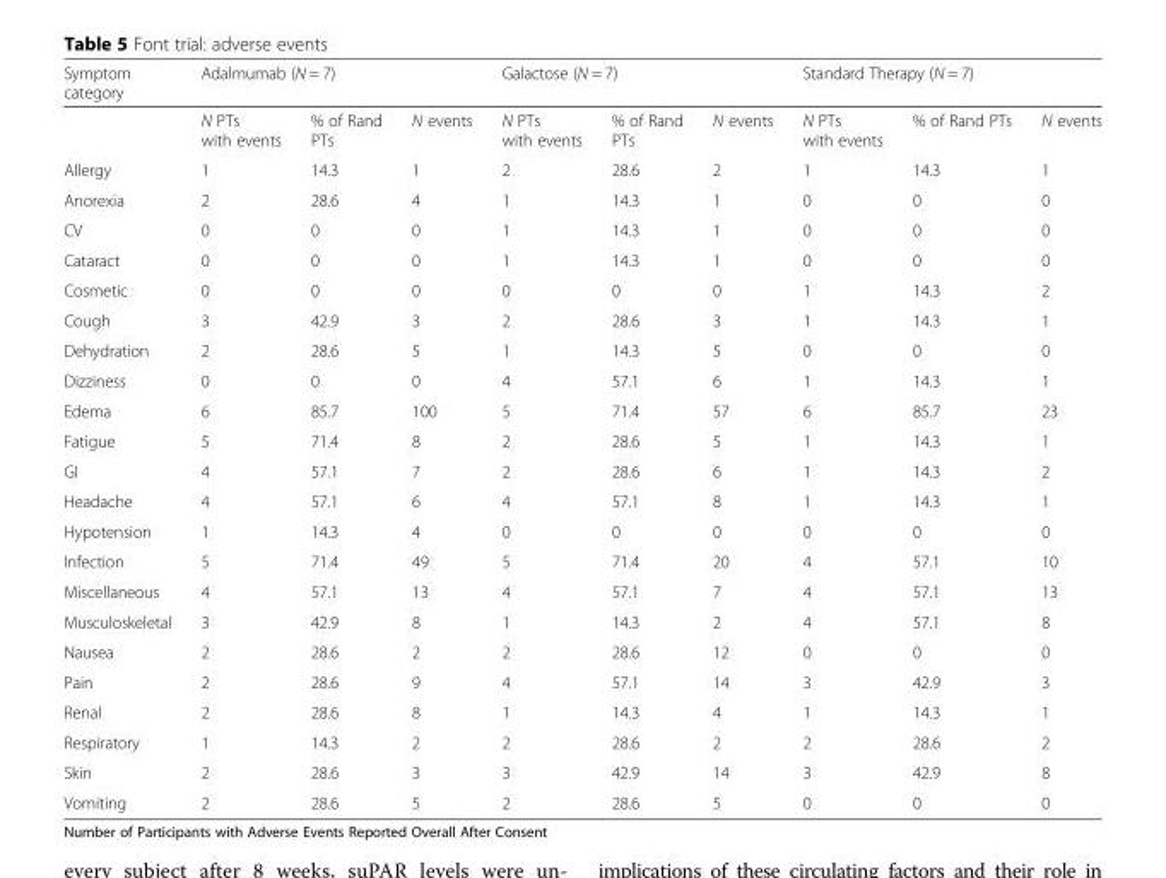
<table><thead><tr><td rowspan="2">Symptom category</td><td colspan="3">Adalmumab (N = 7)</td><td colspan="3">Galactose (N = 7)</td><td colspan="3">Standard Therapy (N = 7)</td></tr><tr><td>N PTs with events</td><td>% of Rand PTs</td><td>N events</td><td>N PTs with events</td><td>% of Rand PTs</td><td>N events</td><td>N PTs with events</td><td>% of Rand PTs</td><td>N events</td></tr></thead><tbody><tr><td>Allergy</td><td>1</td><td>14.3</td><td>1</td><td>2</td><td>28.6</td><td>2</td><td>1</td><td>14.3</td><td>1</td></tr><tr><td>Anorexia</td><td>2</td><td>28.6</td><td>4</td><td>1</td><td>14.3</td><td>1</td><td>0</td><td>0</td><td>0</td></tr><tr><td>CV</td><td>0</td><td>0</td><td>0</td><td>1</td><td>14.3</td><td>1</td><td>0</td><td>0</td><td>0</td></tr><tr><td>Cataract</td><td>0</td><td>0</td><td>0</td><td>1</td><td>14.3</td><td>1</td><td>0</td><td>0</td><td>0</td></tr><tr><td>Cosmetic</td><td>0</td><td>0</td><td>0</td><td>0</td><td>0</td><td>0</td><td>1</td><td>14.3</td><td>2</td></tr><tr><td>Cough</td><td>3</td><td>42.9</td><td>3</td><td>2</td><td>28.6</td><td>3</td><td>1</td><td>14.3</td><td>1</td></tr><tr><td>Dehydration</td><td>2</td><td>28.6</td><td>5</td><td>1</td><td>14.3</td><td>5</td><td>0</td><td>0</td><td>0</td></tr><tr><td>Dizziness</td><td>0</td><td>0</td><td>0</td><td>4</td><td>57.1</td><td>6</td><td>1</td><td>14.3</td><td>1</td></tr><tr><td>Edema</td><td>6</td><td>85.7</td><td>100</td><td>5</td><td>71.4</td><td>57</td><td>6</td><td>85.7</td><td>23</td></tr><tr><td>Fatigue</td><td>5</td><td>71.4</td><td>8</td><td>2</td><td>28.6</td><td>5</td><td>1</td><td>14.3</td><td>1</td></tr><tr><td>GI</td><td>4</td><td>57.1</td><td>7</td><td>2</td><td>28.6</td><td>6</td><td>1</td><td>14.3</td><td>2</td></tr><tr><td>Headache</td><td>4</td><td>57.1</td><td>6</td><td>4</td><td>57.1</td><td>8</td><td>1</td><td>14.3</td><td>1</td></tr><tr><td>Hypotension</td><td>1</td><td>14.3</td><td>4</td><td>0</td><td>0</td><td>0</td><td>0</td><td>0</td><td>0</td></tr><tr><td>Infection</td><td>5</td><td>71.4</td><td>49</td><td>5</td><td>71.4</td><td>20</td><td>4</td><td>57.1</td><td>10</td></tr><tr><td>Miscellaneous</td><td>4</td><td>57.1</td><td>13</td><td>4</td><td>57.1</td><td>7</td><td>4</td><td>57.1</td><td>13</td></tr><tr><td>Musculoskeletal</td><td>3</td><td>42.9</td><td>8</td><td>1</td><td>14.3</td><td>2</td><td>4</td><td>57.1</td><td>8</td></tr><tr><td>Nausea</td><td>2</td><td>28.6</td><td>2</td><td>2</td><td>28.6</td><td>12</td><td>0</td><td>0</td><td>0</td></tr><tr><td>Pain</td><td>2</td><td>28.6</td><td>9</td><td>4</td><td>57.1</td><td>14</td><td>3</td><td>42.9</td><td>3</td></tr><tr><td>Renal</td><td>2</td><td>28.6</td><td>8</td><td>1</td><td>14.3</td><td>4</td><td>1</td><td>14.3</td><td>1</td></tr><tr><td>Respiratory</td><td>1</td><td>14.3</td><td>2</td><td>2</td><td>28.6</td><td>2</td><td>2</td><td>28.6</td><td>2</td></tr><tr><td>Skin</td><td>2</td><td>28.6</td><td>3</td><td>3</td><td>42.9</td><td>14</td><td>3</td><td>42.9</td><td>8</td></tr><tr><td>Vomiting</td><td>2</td><td>28.6</td><td>5</td><td>2</td><td>28.6</td><td>5</td><td>0</td><td>0</td><td>0</td></tr></tbody></table>